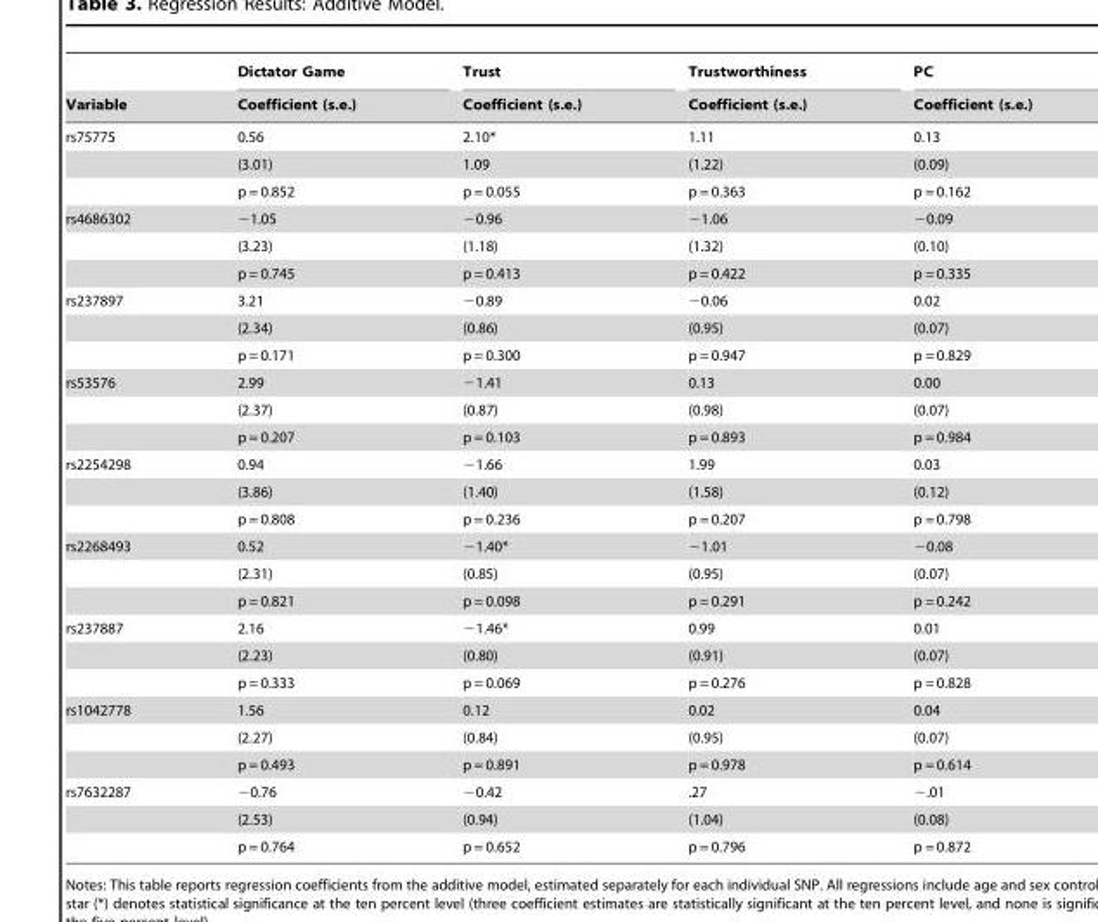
<table><thead><tr><td rowspan="2">Variable</td><td rowspan="2">Dictator Game Coefficient (s.e.)</td><td rowspan="2">Trust Coefficient (s.e.)</td><td rowspan="2">Trustworthiness Coefficient (s.e.)</td><td rowspan="2">PC Coefficient (s.e.)</td></tr><tr></tr></thead><tbody><tr><td rowspan="3">rs75775</td><td>0.56</td><td>2.10*</td><td>1.11</td><td>0.13</td></tr><tr><td>(3.01)</td><td>1.09</td><td>(1.22)</td><td>(0.09)</td></tr><tr><td>p = 0.852</td><td>p = 0.055</td><td>p = 0.363</td><td>p = 0.162</td></tr><tr><td rowspan="3">rs4686302</td><td>−1.05</td><td>−0.96</td><td>−1.06</td><td>−0.09</td></tr><tr><td>(3.23)</td><td>(1.18)</td><td>(1.32)</td><td>(0.10)</td></tr><tr><td>p = 0.745</td><td>p = 0.413</td><td>p = 0.422</td><td>p = 0.335</td></tr><tr><td rowspan="3">rs237897</td><td>3.21</td><td>−0.89</td><td>−0.06</td><td>0.02</td></tr><tr><td>(2.34)</td><td>(0.86)</td><td>(0.95)</td><td>(0.07)</td></tr><tr><td>p = 0.171</td><td>p = 0.300</td><td>p = 0.947</td><td>p = 0.829</td></tr><tr><td rowspan="3">rs53576</td><td>2.99</td><td>−1.41</td><td>0.13</td><td>0.00</td></tr><tr><td>(2.37)</td><td>(0.87)</td><td>(0.98)</td><td>(0.07)</td></tr><tr><td>p = 0.207</td><td>p = 0.103</td><td>p = 0.893</td><td>p = 0.984</td></tr><tr><td rowspan="3">rs2254298</td><td>0.94</td><td>−1.66</td><td>1.99</td><td>0.03</td></tr><tr><td>(3.86)</td><td>(1.40)</td><td>(1.58)</td><td>(0.12)</td></tr><tr><td>p = 0.808</td><td>p = 0.236</td><td>p = 0.207</td><td>p = 0.798</td></tr><tr><td rowspan="3">rs2268493</td><td>0.52</td><td>−1.40*</td><td>−1.01</td><td>−0.08</td></tr><tr><td>(2.31)</td><td>(0.85)</td><td>(0.95)</td><td>(0.07)</td></tr><tr><td>p = 0.821</td><td>p = 0.098</td><td>p = 0.291</td><td>p = 0.242</td></tr><tr><td rowspan="3">rs237887</td><td>2.16</td><td>−1.46*</td><td>0.99</td><td>0.01</td></tr><tr><td>(2.23)</td><td>(0.80)</td><td>(0.91)</td><td>(0.07)</td></tr><tr><td>p = 0.333</td><td>p = 0.069</td><td>p = 0.276</td><td>p = 0.828</td></tr><tr><td rowspan="3">rs1042778</td><td>1.56</td><td>0.12</td><td>0.02</td><td>0.04</td></tr><tr><td>(2.27)</td><td>(0.84)</td><td>(0.95)</td><td>(0.07)</td></tr><tr><td>p = 0.493</td><td>p = 0.891</td><td>p = 0.978</td><td>p = 0.614</td></tr><tr><td rowspan="3">rs7632287</td><td>−0.76</td><td>−0.42</td><td>.27</td><td>−.01</td></tr><tr><td>(2.53)</td><td>(0.94)</td><td>(1.04)</td><td>(0.08)</td></tr><tr><td>p = 0.764</td><td>p = 0.652</td><td>p = 0.796</td><td>p = 0.872</td></tr></tbody></table>